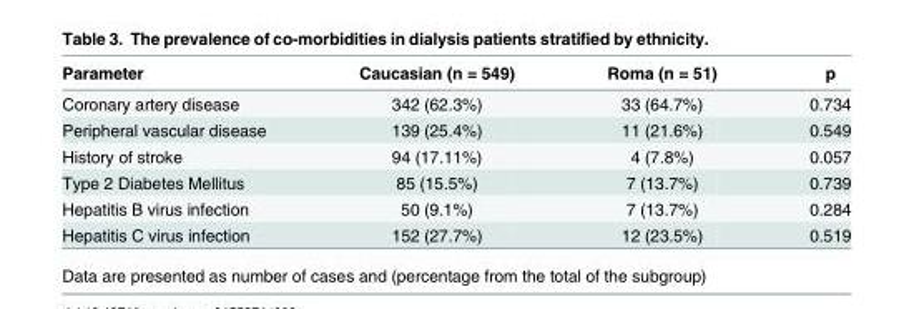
<table><thead><tr><td>Parameter</td><td>Caucasian (n = 549)</td><td>Roma (n = 51)</td><td>p</td></tr></thead><tbody><tr><td>Coronary artery disease</td><td>342 (62.3%)</td><td>33 (64.7%)</td><td>0.734</td></tr><tr><td>Peripheral vascular disease</td><td>139 (25.4%)</td><td>11 (21.6%)</td><td>0.549</td></tr><tr><td>History of stroke</td><td>94 (17.11%)</td><td>4 (7.8%)</td><td>0.057</td></tr><tr><td>Type 2 Diabetes Mellitus</td><td>85 (15.5%)</td><td>7 (13.7%)</td><td>0.739</td></tr><tr><td>Hepatitis B virus infection</td><td>50 (9.1%)</td><td>7 (13.7%)</td><td>0.284</td></tr><tr><td>Hepatitis C virus infection</td><td>152 (27.7%)</td><td>12 (23.5%)</td><td>0.519</td></tr></tbody></table>